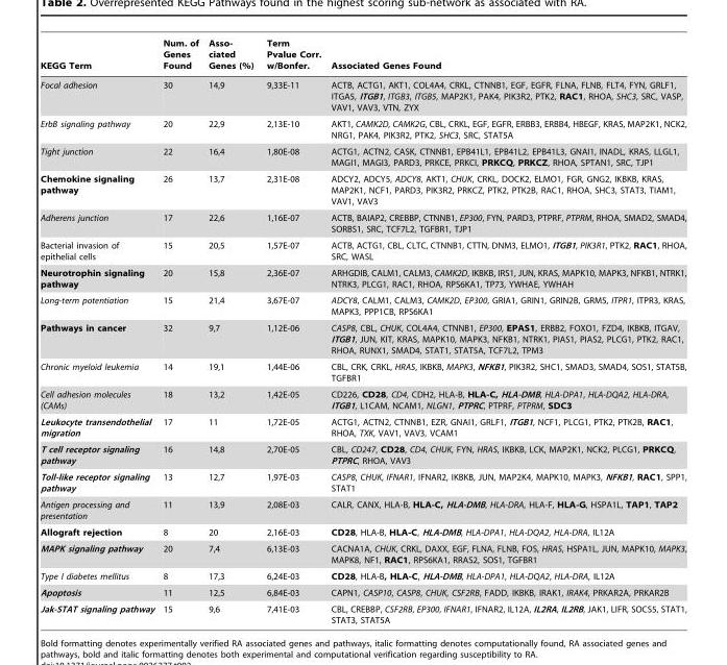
<table><thead><tr><td>KEGG Term</td><td>Num. of Genes Found</td><td>Asso- ciated Genes (%)</td><td>Term Pvalue Corr. w/Bonfer.</td><td>Associated Genes Found</td></tr></thead><tbody><tr><td>Focal adhesion</td><td>30</td><td>14,9</td><td>9,33E-11</td><td>ACTB, ACTG1, AKT1, COL4A4, CRKL, CTNNB1, EGF, EGFR, FLNA, FLNB, FLT4, FYN, GRLF1, ITGA5, ITGB1, ITGB3, ITGB5, MAP2K1, PAK4, PIK3R2, PTK2, RAC1, RHOA, SHC3, SRC, VASP, VAV1, VAV3, VTN, ZYX</td></tr><tr><td>ErbB signaling pathway</td><td>20</td><td>22,9</td><td>2,13E-10</td><td>AKT1, CAMK2D, CAMK2G, CBL, CRKL, EGF, EGFR, ERBB3, ERBB4, HBEGF, KRAS, MAP2K1, NCK2, NRG1, PAK4, PIK3R2, PTK2, SHC3, SRC, STAT5A</td></tr><tr><td>Tight junction</td><td>22</td><td>16,4</td><td>1,80E-08</td><td>ACTG1, ACTN2, CASK, CTNNB1, EPB41L1, EPB41L2, EPB41L3, GNAI1, INADL, KRAS, LLGL1, MAGI1, MAGI3, PARD3, PRKCE, PRKCI, PRKCQ, PRKCZ, RHOA, SPTAN1, SRC, TJP1</td></tr><tr><td>Chemokine signaling pathway</td><td>26</td><td>13,7</td><td>2,31E-08</td><td>ADCY2, ADCY5, ADCY8, AKT1, CHUK, CRKL, DOCK2, ELMO1, FGR, GNG2, IKBKB, KRAS, MAP2K1, NCF1, PARD3, PIK3R2, PRKCZ, PTK2, PTK2B, RAC1, RHOA, SHC3, STAT3, TIAM1, VAV1, VAV3</td></tr><tr><td>Adherens junction</td><td>17</td><td>22,6</td><td>1,16E-07</td><td>ACTB, BAIAP2, CREBBP, CTNNB1, EP300, FYN, PARD3, PTPRF, PTPRM, RHOA, SMAD2, SMAD4, SORBS1, SRC, TCF7L2, TGFBR1, TJP1</td></tr><tr><td>Bacterial invasion of epithelial cells</td><td>15</td><td>20,5</td><td>1,57E-07</td><td>ACTB, ACTG1, CBL, CLTC, CTNNB1, CTTN, DNM3, ELMO1, ITGB1, PIK3R1, PTK2, RAC1, RHOA, SRC, WASL</td></tr><tr><td>Neurotrophin signaling pathway</td><td>20</td><td>15,8</td><td>2,36E-07</td><td>ARHGDIB, CALM1, CALM3, CAMK2D, IKBKB, IRS1, JUN, KRAS, MAPK10, MAPK3, NFKB1, NTRK1, NTRK3, PLCG1, RAC1, RHOA, RPS6KA1, TP73, YWHAE, YWHAH</td></tr><tr><td>Long-term potentiation</td><td>15</td><td>21,4</td><td>3,67E-07</td><td>ADCY8, CALM1, CALM3, CAMK2D, EP300, GRIA1, GRIN1, GRIN2B, GRM5, ITPR1, ITPR3, KRAS, MAPK3, PPP1CB, RPS6KA1</td></tr><tr><td>Pathways in cancer</td><td>32</td><td>9,7</td><td>1,12E-06</td><td>CASP8, CBL, CHUK, COL4A4, CTNNB1, EP300, EPAS1, ERBB2, FOXO1, FZD4, IKBKB, ITGAV, ITGB1, JUN, KIT, KRAS, MAPK10, MAPK3, NFKB1, NTRK1, PIAS1, PIAS2, PLCG1, PTK2, RAC1, RHOA, RUNX1, SMAD4, STAT1, STAT5A, TCF7L2, TPM3</td></tr><tr><td>Chronic myeloid leukemia</td><td>14</td><td>19,1</td><td>1,44E-06</td><td>CBL, CRK, CRKL, HRAS, IKBKB, MAPK3, NFKB1, PIK3R2, SHC1, SMAD3, SMAD4, SOS1, STAT5B, TGFBR1</td></tr><tr><td>Cell adhesion molecules (CAMs)</td><td>18</td><td>13,2</td><td>1,42E-05</td><td>CD226, CD28, CD4, CDH2, HLA-B, HLA-C, HLA-DMB, HLA-DPA1, HLA-DQA2, HLA-DRA, ITGB1, L1CAM, NCAM1, NLGN1, PTPRC, PTPRF, PTPRM, SDC3</td></tr><tr><td>Leukocyte transendothelial migration</td><td>17</td><td>11</td><td>1,72E-05</td><td>ACTG1, ACTN2, CTNNB1, EZR, GNAI1, GRLF1, ITGB1, NCF1, PLCG1, PTK2, PTK2B, RAC1, RHOA, TXK, VAV1, VAV3, VCAM1</td></tr><tr><td>T cell receptor signaling pathway</td><td>16</td><td>14,8</td><td>2,70E-05</td><td>CBL, CD247, CD28, CD4, CHUK, FYN, HRAS, IKBKB, LCK, MAP2K1, NCK2, PLCG1, PRKCQ, PTPRC, RHOA, VAV3</td></tr><tr><td>Toll-like receptor signaling pathway</td><td>13</td><td>12,7</td><td>1,97E-03</td><td>CASP8, CHUK, IFNAR1, IFNAR2, IKBKB, JUN, MAP2K4, MAPK10, MAPK3, NFKB1, RAC1, SPP1, STAT1</td></tr><tr><td>Antigen processing and presentation</td><td>11</td><td>13,9</td><td>2,08E-03</td><td>CALR, CANX, HLA-B, HLA-C, HLA-DMB, HLA-DRA, HLA-F, HLA-G, HSPA1L, TAP1, TAP2</td></tr><tr><td>Allograft rejection</td><td>8</td><td>20</td><td>2,16E-03</td><td>CD28, HLA-B, HLA-C, HLA-DMB, HLA-DPA1, HLA-DQA2, HLA-DRA, IL12A</td></tr><tr><td>MAPK signaling pathway</td><td>20</td><td>7,4</td><td>6,13E-03</td><td>CACNA1A, CHUK, CRKL, DAXX, EGF, FLNA, FLNB, FOS, HRAS, HSPA1L, JUN, MAPK10, MAPK3, MAPK8, NF1, RAC1, RPS6KA1, RRAS2, SOS1, TGFBR1</td></tr><tr><td>Type I diabetes mellitus</td><td>8</td><td>17,3</td><td>6,24E-03</td><td>CD28, HLA-B, HLA-C, HLA-DMB, HLA-DPA1, HLA-DQA2, HLA-DRA, IL12A</td></tr><tr><td>Apoptosis</td><td>11</td><td>12,5</td><td>6,84E-03</td><td>CAPN1, CASP10, CASP8, CHUK, CSF2RB, FADD, IKBKB, IRAK1, IRAK4, PRKAR2A, PRKAR2B</td></tr><tr><td>Jak-STAT signaling pathway</td><td>15</td><td>9,6</td><td>7,41E-03</td><td>CBL, CREBBP, CSF2RB, EP300, IFNAR1, IFNAR2, IL12A, IL2RA, IL2RB, JAK1, LIFR, SOCS5, STAT1, STAT3, STAT5A</td></tr></tbody></table>